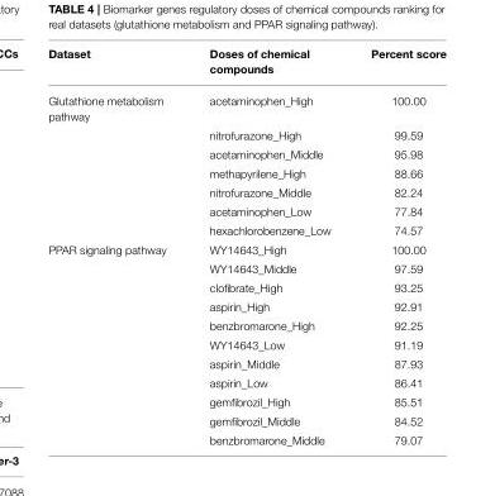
<table><thead><tr><td>Dataset</td><td>Doses of chemical compounds</td><td>Percent score</td></tr></thead><tbody><tr><td rowspan="7">Glutathione metabolism pathway</td><td>acetaminophen_High</td><td>100.00</td></tr><tr><td>nitrofurazone_High</td><td>99.59</td></tr><tr><td>acetaminophen_Middle</td><td>95.98</td></tr><tr><td>methapyrilene_High</td><td>88.66</td></tr><tr><td>nitrofurazone_Middle</td><td>82.24</td></tr><tr><td>acetaminophen_Low</td><td>77.84</td></tr><tr><td>hexachlorobenzene_Low</td><td>74.57</td></tr><tr><td rowspan="11">PPAR signaling pathway</td><td>WY14643_High</td><td>100.00</td></tr><tr><td>WY14643_Middle</td><td>97.59</td></tr><tr><td>clofibrate_High</td><td>93.25</td></tr><tr><td>aspirin_High</td><td>92.91</td></tr><tr><td>benzbromarone_High</td><td>92.25</td></tr><tr><td>WY14643_Low</td><td>91.19</td></tr><tr><td>aspirin_Middle</td><td>87.93</td></tr><tr><td>aspirin_Low</td><td>86.41</td></tr><tr><td>gemfibrozil_High</td><td>85.51</td></tr><tr><td>gemfibrozil_Middle</td><td>84.52</td></tr><tr><td>benzbromarone_Middle</td><td>79.07</td></tr></tbody></table>